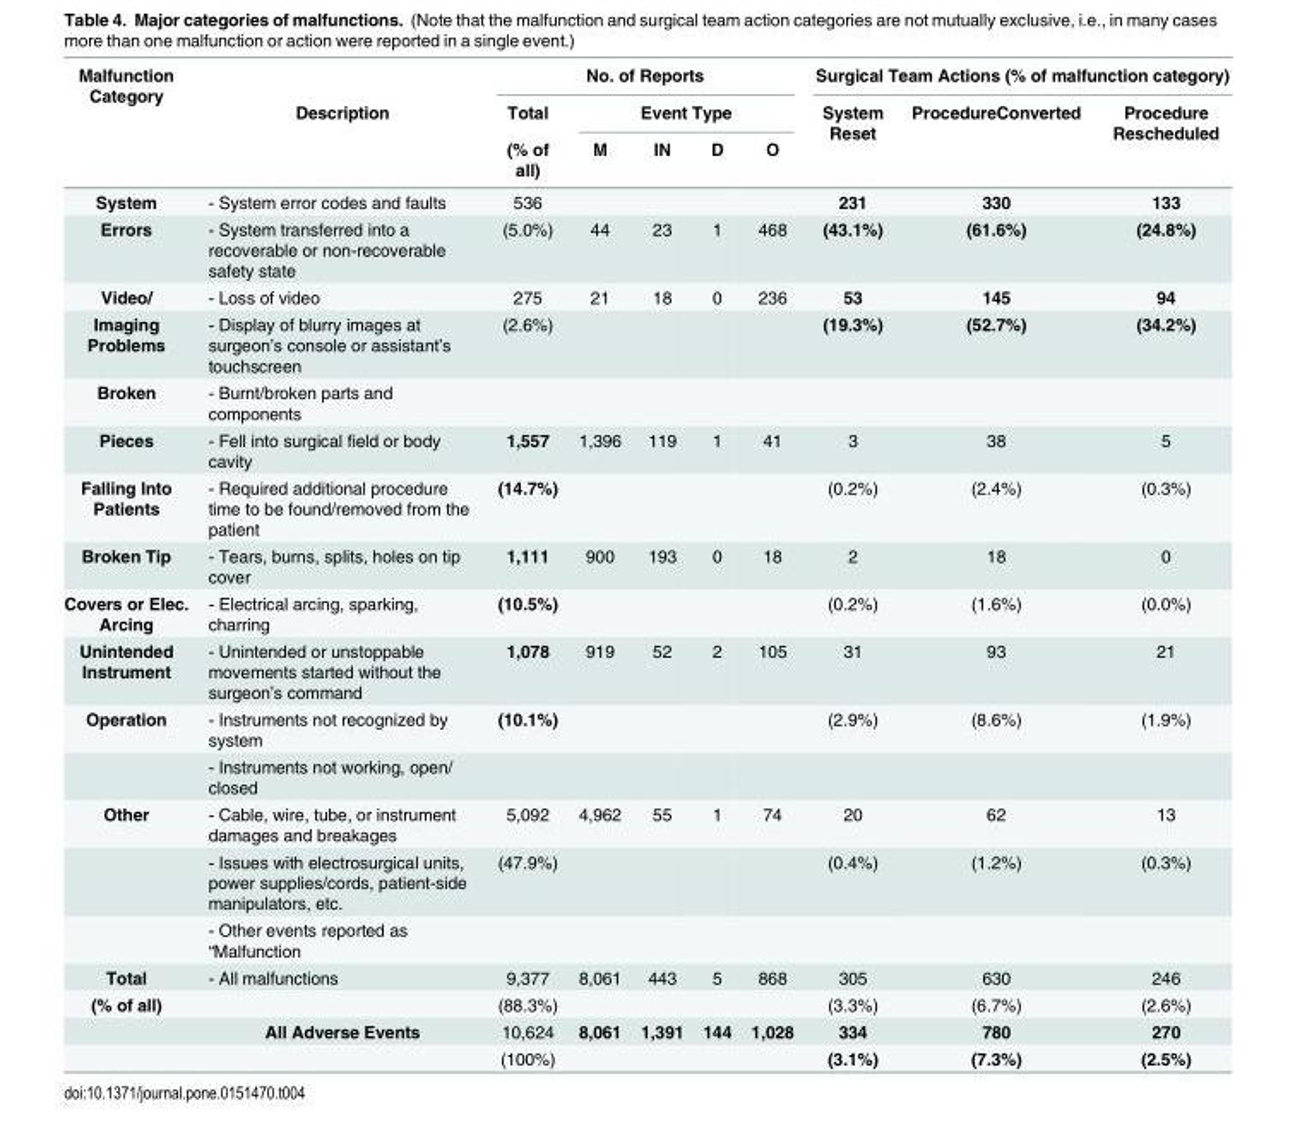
<table><thead><tr><td rowspan="3">Malfunction Category</td><td rowspan="3">Description</td><td colspan="5">No. of Reports</td><td colspan="3">Surgical Team Actions (% of malfunction category)</td></tr><tr><td rowspan="2">Total (% of all)</td><td colspan="4">Event Type</td><td rowspan="2">System Reset</td><td rowspan="2">ProcedureConverted</td><td rowspan="2">Procedure Rescheduled</td></tr><tr><td>M</td><td>IN</td><td>D</td><td>O</td></tr></thead><tbody><tr><td>System</td><td>- System error codes and faults</td><td>536</td><td></td><td></td><td></td><td></td><td>231</td><td>330</td><td>133</td></tr><tr><td>Errors</td><td>- System transferred into a recoverable or non-recoverable safety state</td><td>(5.0%)</td><td>44</td><td>23</td><td>1</td><td>468</td><td>(43.1%)</td><td>(61.6%)</td><td>(24.8%)</td></tr><tr><td>Video/</td><td>- Loss of video</td><td>275</td><td>21</td><td>18</td><td>0</td><td>236</td><td>53</td><td>145</td><td>94</td></tr><tr><td>Imaging Problems</td><td>- Display of blurry images at surgeon’s console or assistant’s touchscreen</td><td>(2.6%)</td><td></td><td></td><td></td><td></td><td>(19.3%)</td><td>(52.7%)</td><td>(34.2%)</td></tr><tr><td>Broken</td><td>- Burnt/broken parts and components</td><td></td><td></td><td></td><td></td><td></td><td></td><td></td><td></td></tr><tr><td>Pieces</td><td>- Fell into surgical field or body cavity</td><td>1,557</td><td>1,396</td><td>119</td><td>1</td><td>41</td><td>3</td><td>38</td><td>5</td></tr><tr><td>Falling Into Patients</td><td>- Required additional procedure time to be found/removed from the patient</td><td>(14.7%)</td><td></td><td></td><td></td><td></td><td>(0.2%)</td><td>(2.4%)</td><td>(0.3%)</td></tr><tr><td>Broken Tip</td><td>- Tears, burns, splits, holes on tip cover</td><td>1,111</td><td>900</td><td>193</td><td>0</td><td>18</td><td>2</td><td>18</td><td>0</td></tr><tr><td>Covers or Elec. Arcing</td><td>- Electrical arcing, sparking, charring</td><td>(10.5%)</td><td></td><td></td><td></td><td></td><td>(0.2%)</td><td>(1.6%)</td><td>(0.0%)</td></tr><tr><td>Unintended Instrument</td><td>- Unintended or unstoppable movements started without the surgeon’s command</td><td>1,078</td><td>919</td><td>52</td><td>2</td><td>105</td><td>31</td><td>93</td><td>21</td></tr><tr><td rowspan="2">Operation</td><td>- Instruments not recognized by system</td><td>(10.1%)</td><td></td><td></td><td></td><td></td><td>(2.9%)</td><td>(8.6%)</td><td>(1.9%)</td></tr><tr><td>- Instruments not working, open/ closed</td><td></td><td></td><td></td><td></td><td></td><td></td><td></td><td></td></tr><tr><td rowspan="3">Other</td><td>- Cable, wire, tube, or instrument damages and breakages</td><td>5,092</td><td>4,962</td><td>55</td><td>1</td><td>74</td><td>20</td><td>62</td><td>13</td></tr><tr><td>- Issues with electrosurgical units, power supplies/cords, patient-side manipulators, etc.</td><td>(47.9%)</td><td></td><td></td><td></td><td></td><td>(0.4%)</td><td>(1.2%)</td><td>(0.3%)</td></tr><tr><td>- Other events reported as “Malfunction</td><td></td><td></td><td></td><td></td><td></td><td></td><td></td><td></td></tr><tr><td>Total</td><td>- All malfunctions</td><td>9,377</td><td>8,061</td><td>443</td><td>5</td><td>868</td><td>305</td><td>630</td><td>246</td></tr><tr><td rowspan="3">(% of all)</td><td></td><td>(88.3%)</td><td></td><td></td><td></td><td></td><td>(3.3%)</td><td>(6.7%)</td><td>(2.6%)</td></tr><tr><td>All Adverse Events</td><td>10,624</td><td>8,061</td><td>1,391</td><td>144</td><td>1,028</td><td>334</td><td>780</td><td>270</td></tr><tr><td></td><td>(100%)</td><td></td><td></td><td></td><td></td><td>(3.1%)</td><td>(7.3%)</td><td>(2.5%)</td></tr></tbody></table>